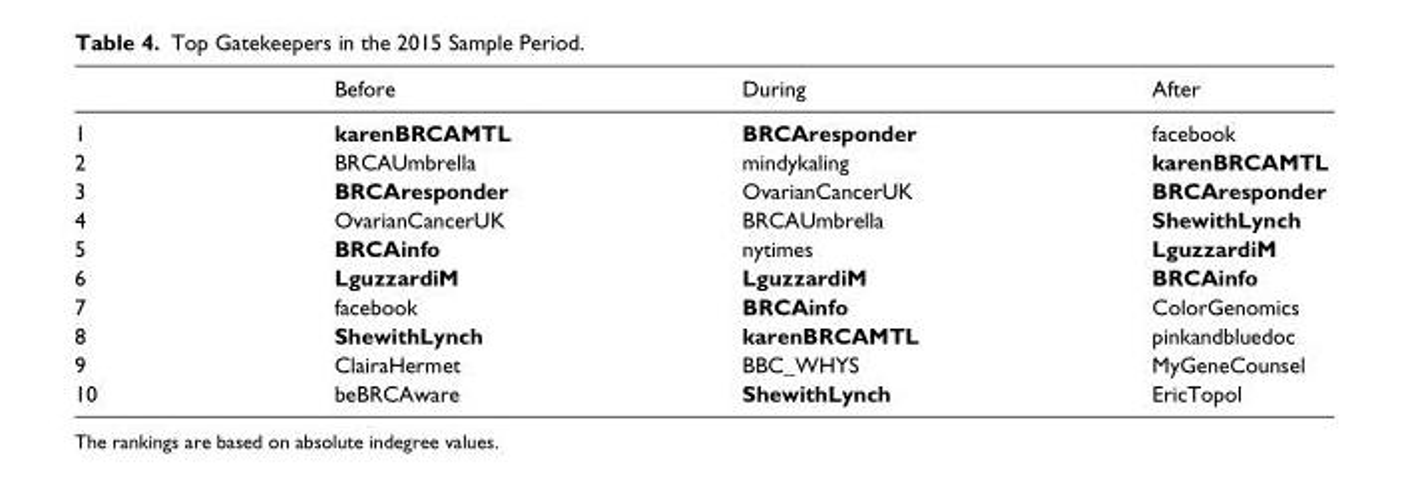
<table><thead><tr><td></td><td>Before</td><td>During</td><td>After</td></tr></thead><tbody><tr><td>1</td><td>karenBRCAMTL</td><td>BRCAresponder</td><td>facebook</td></tr><tr><td>2</td><td>BRCAUmbrella</td><td>mindykaling</td><td>karenBRCAMTL</td></tr><tr><td>3</td><td>BRCAresponder</td><td>OvarianCancerUK</td><td>BRCAresponder</td></tr><tr><td>4</td><td>OvarianCancerUK</td><td>BRCAUmbrella</td><td>ShewithLynch</td></tr><tr><td>5</td><td>BRCAinfo</td><td>nytimes</td><td>LguzzardiM</td></tr><tr><td>6</td><td>LguzzardiM</td><td>LguzzardiM</td><td>BRCAinfo</td></tr><tr><td>7</td><td>facebook</td><td>BRCAinfo</td><td>ColorGenomics</td></tr><tr><td>8</td><td>ShewithLynch</td><td>karenBRCAMTL</td><td>pinkandbluedoc</td></tr><tr><td>9</td><td>ClairaHermet</td><td>BBC_WHYS</td><td>MyGeneCounsel</td></tr><tr><td>10</td><td>beBRCAware</td><td>ShewithLynch</td><td>EricTopol</td></tr></tbody></table>